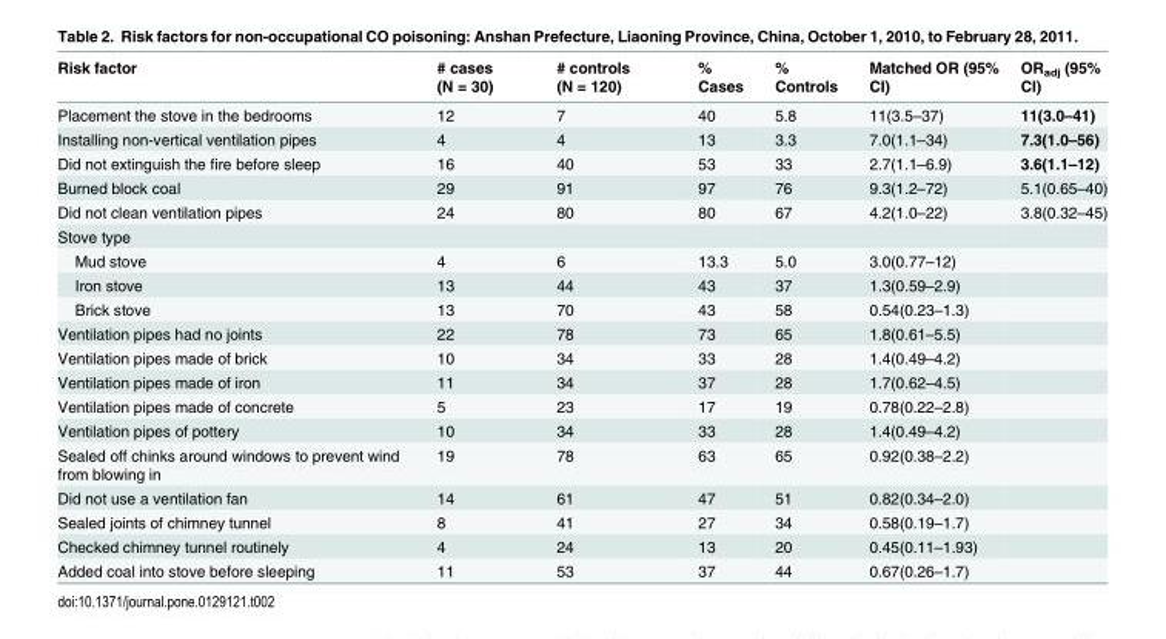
<table><thead><tr><td>Risk factor</td><td># cases (N = 30)</td><td># controls (N = 120)</td><td>% Cases</td><td>% Controls</td><td>Matched OR (95% CI)</td><td>OR<sub>adj</sub> (95% CI)</td></tr></thead><tbody><tr><td>Placement the stove in the bedrooms</td><td>12</td><td>7</td><td>40</td><td>5.8</td><td>11(3.5–37)</td><td>11(3.0–41)</td></tr><tr><td>Installing non-vertical ventilation pipes</td><td>4</td><td>4</td><td>13</td><td>3.3</td><td>7.0(1.1–34)</td><td>7.3(1.0–56)</td></tr><tr><td>Did not extinguish the fire before sleep</td><td>16</td><td>40</td><td>53</td><td>33</td><td>2.7(1.1–6.9)</td><td>3.6(1.1–12)</td></tr><tr><td>Burned block coal</td><td>29</td><td>91</td><td>97</td><td>76</td><td>9.3(1.2–72)</td><td>5.1(0.65–40)</td></tr><tr><td>Did not clean ventilation pipes</td><td>24</td><td>80</td><td>80</td><td>67</td><td>4.2(1.0–22)</td><td>3.8(0.32–45)</td></tr><tr><td colspan="7">Stove type</td></tr><tr><td>Mud stove</td><td>4</td><td>6</td><td>13.3</td><td>5.0</td><td>3.0(0.77–12)</td><td></td></tr><tr><td>Iron stove</td><td>13</td><td>44</td><td>43</td><td>37</td><td>1.3(0.59–2.9)</td><td></td></tr><tr><td>Brick stove</td><td>13</td><td>70</td><td>43</td><td>58</td><td>0.54(0.23–1.3)</td><td></td></tr><tr><td>Ventilation pipes had no joints</td><td>22</td><td>78</td><td>73</td><td>65</td><td>1.8(0.61–5.5)</td><td></td></tr><tr><td>Ventilation pipes made of brick</td><td>10</td><td>34</td><td>33</td><td>28</td><td>1.4(0.49–4.2)</td><td></td></tr><tr><td>Ventilation pipes made of iron</td><td>11</td><td>34</td><td>37</td><td>28</td><td>1.7(0.62–4.5)</td><td></td></tr><tr><td>Ventilation pipes made of concrete</td><td>5</td><td>23</td><td>17</td><td>19</td><td>0.78(0.22–2.8)</td><td></td></tr><tr><td>Ventilation pipes of pottery</td><td>10</td><td>34</td><td>33</td><td>28</td><td>1.4(0.49–4.2)</td><td></td></tr><tr><td>Sealed off chinks around windows to prevent wind from blowing in</td><td>19</td><td>78</td><td>63</td><td>65</td><td>0.92(0.38–2.2)</td><td></td></tr><tr><td>Did not use a ventilation fan</td><td>14</td><td>61</td><td>47</td><td>51</td><td>0.82(0.34–2.0)</td><td></td></tr><tr><td>Sealed joints of chimney tunnel</td><td>8</td><td>41</td><td>27</td><td>34</td><td>0.58(0.19–1.7)</td><td></td></tr><tr><td>Checked chimney tunnel routinely</td><td>4</td><td>24</td><td>13</td><td>20</td><td>0.45(0.11–1.93)</td><td></td></tr><tr><td>Added coal into stove before sleeping</td><td>11</td><td>53</td><td>37</td><td>44</td><td>0.67(0.26–1.7)</td><td></td></tr></tbody></table>